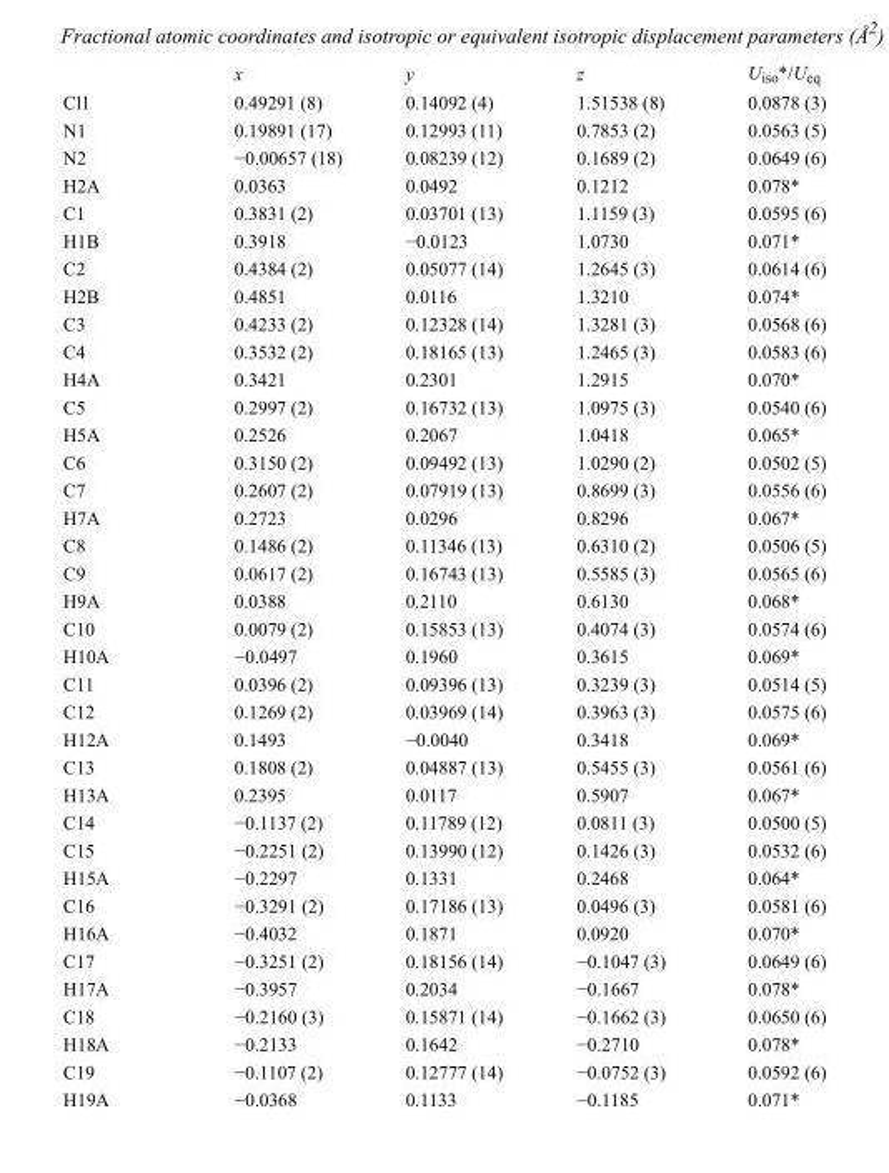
<table><thead><tr><td></td><td>x</td><td>y</td><td>z</td><td>U<sub>iso</sub>*/U<sub>eq</sub></td></tr></thead><tbody><tr><td>Cl1</td><td>0.49291 (8)</td><td>0.14092 (4)</td><td>1.51538 (8)</td><td>0.0878 (3)</td></tr><tr><td>N1</td><td>0.19891 (17)</td><td>0.12993 (11)</td><td>0.7853 (2)</td><td>0.0563 (5)</td></tr><tr><td>N2</td><td>−0.00657 (18)</td><td>0.08239 (12)</td><td>0.1689 (2)</td><td>0.0649 (6)</td></tr><tr><td>H2A</td><td>0.0363</td><td>0.0492</td><td>0.1212</td><td>0.078*</td></tr><tr><td>C1</td><td>0.3831 (2)</td><td>0.03701 (13)</td><td>1.1159 (3)</td><td>0.0595 (6)</td></tr><tr><td>H1B</td><td>0.3918</td><td>−0.0123</td><td>1.0730</td><td>0.071*</td></tr><tr><td>C2</td><td>0.4384 (2)</td><td>0.05077 (14)</td><td>1.2645 (3)</td><td>0.0614 (6)</td></tr><tr><td>H2B</td><td>0.4851</td><td>0.0116</td><td>1.3210</td><td>0.074*</td></tr><tr><td>C3</td><td>0.4233 (2)</td><td>0.12328 (14)</td><td>1.3281 (3)</td><td>0.0568 (6)</td></tr><tr><td>C4</td><td>0.3532 (2)</td><td>0.18165 (13)</td><td>1.2465 (3)</td><td>0.0583 (6)</td></tr><tr><td>H4A</td><td>0.3421</td><td>0.2301</td><td>1.2915</td><td>0.070*</td></tr><tr><td>C5</td><td>0.2997 (2)</td><td>0.16732 (13)</td><td>1.0975 (3)</td><td>0.0540 (6)</td></tr><tr><td>H5A</td><td>0.2526</td><td>0.2067</td><td>1.0418</td><td>0.065*</td></tr><tr><td>C6</td><td>0.3150 (2)</td><td>0.09492 (13)</td><td>1.0290 (2)</td><td>0.0502 (5)</td></tr><tr><td>C7</td><td>0.2607 (2)</td><td>0.07919 (13)</td><td>0.8699 (3)</td><td>0.0556 (6)</td></tr><tr><td>H7A</td><td>0.2723</td><td>0.0296</td><td>0.8296</td><td>0.067*</td></tr><tr><td>C8</td><td>0.1486 (2)</td><td>0.11346 (13)</td><td>0.6310 (2)</td><td>0.0506 (5)</td></tr><tr><td>C9</td><td>0.0617 (2)</td><td>0.16743 (13)</td><td>0.5585 (3)</td><td>0.0565 (6)</td></tr><tr><td>H9A</td><td>0.0388</td><td>0.2110</td><td>0.6130</td><td>0.068*</td></tr><tr><td>C10</td><td>0.0079 (2)</td><td>0.15853 (13)</td><td>0.4074 (3)</td><td>0.0574 (6)</td></tr><tr><td>H10A</td><td>−0.0497</td><td>0.1960</td><td>0.3615</td><td>0.069*</td></tr><tr><td>C11</td><td>0.0396 (2)</td><td>0.09396 (13)</td><td>0.3239 (3)</td><td>0.0514 (5)</td></tr><tr><td>C12</td><td>0.1269 (2)</td><td>0.03969 (14)</td><td>0.3963 (3)</td><td>0.0575 (6)</td></tr><tr><td>H12A</td><td>0.1493</td><td>−0.0040</td><td>0.3418</td><td>0.069*</td></tr><tr><td>C13</td><td>0.1808 (2)</td><td>0.04887 (13)</td><td>0.5455 (3)</td><td>0.0561 (6)</td></tr><tr><td>H13A</td><td>0.2395</td><td>0.0117</td><td>0.5907</td><td>0.067*</td></tr><tr><td>C14</td><td>−0.1137 (2)</td><td>0.11789 (12)</td><td>0.0811 (3)</td><td>0.0500 (5)</td></tr><tr><td>C15</td><td>−0.2251 (2)</td><td>0.13990 (12)</td><td>0.1426 (3)</td><td>0.0532 (6)</td></tr><tr><td>H15A</td><td>−0.2297</td><td>0.1331</td><td>0.2468</td><td>0.064*</td></tr><tr><td>C16</td><td>−0.3291 (2)</td><td>0.17186 (13)</td><td>0.0496 (3)</td><td>0.0581 (6)</td></tr><tr><td>H16A</td><td>−0.4032</td><td>0.1871</td><td>0.0920</td><td>0.070*</td></tr><tr><td>C17</td><td>−0.3251 (2)</td><td>0.18156 (14)</td><td>−0.1047 (3)</td><td>0.0649 (6)</td></tr><tr><td>H17A</td><td>−0.3957</td><td>0.2034</td><td>−0.1667</td><td>0.078*</td></tr><tr><td>C18</td><td>−0.2160 (3)</td><td>0.15871 (14)</td><td>−0.1662 (3)</td><td>0.0650 (6)</td></tr><tr><td>H18A</td><td>−0.2133</td><td>0.1642</td><td>−0.2710</td><td>0.078*</td></tr><tr><td>C19</td><td>−0.1107 (2)</td><td>0.12777 (14)</td><td>−0.0752 (3)</td><td>0.0592 (6)</td></tr><tr><td>H19A</td><td>−0.0368</td><td>0.1133</td><td>−0.1185</td><td>0.071*</td></tr></tbody></table>